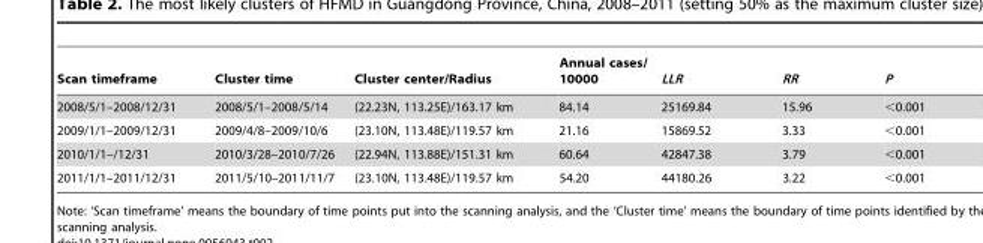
<table><thead><tr><td>Scan timeframe</td><td>Cluster time</td><td>Cluster center/Radius</td><td>Annual cases/ 10000</td><td>LLR</td><td>RR</td><td>P</td></tr></thead><tbody><tr><td>2008/5/1–2008/12/31</td><td>2008/5/1–2008/5/14</td><td>(22.23N, 113.25E)/163.17 km</td><td>84.14</td><td>25169.84</td><td>15.96</td><td>&lt;0.001</td></tr><tr><td>2009/1/1–2009/12/31</td><td>2009/4/8–2009/10/6</td><td>(23.10N, 113.48E)/119.57 km</td><td>21.16</td><td>15869.52</td><td>3.33</td><td>&lt;0.001</td></tr><tr><td>2010/1/1–/12/31</td><td>2010/3/28–2010/7/26</td><td>(22.94N, 113.88E)/151.31 km</td><td>60.64</td><td>42847.38</td><td>3.79</td><td>&lt;0.001</td></tr><tr><td>2011/1/1–2011/12/31</td><td>2011/5/10–2011/11/7</td><td>(23.10N, 113.48E)/119.57 km</td><td>54.20</td><td>44180.26</td><td>3.22</td><td>&lt;0.001</td></tr></tbody></table>